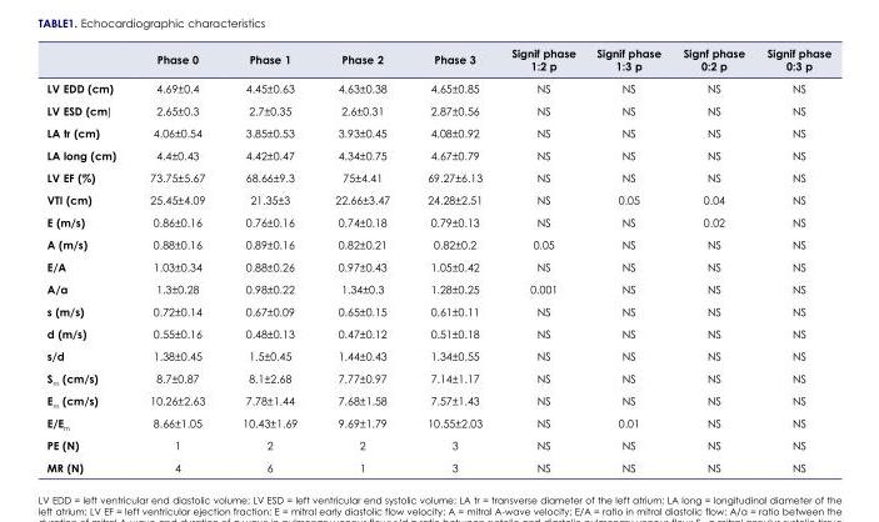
<table><thead><tr><td></td><td>Phase 0</td><td>Phase 1</td><td>Phase 2</td><td>Phase 3</td><td>Signif phase 1:2 p</td><td>Signif phase 1:3 p</td><td>Signf phase 0:2 p</td><td>Signif phase 0:3 p</td></tr></thead><tbody><tr><td>LV EDD (cm)</td><td>4.69±0.4</td><td>4.45±0.63</td><td>4.63±0.38</td><td>4.65±0.85</td><td>NS</td><td>NS</td><td>NS</td><td>NS</td></tr><tr><td>LV ESD (cm)</td><td>2.65±0.3</td><td>2.7±0.35</td><td>2.6±0.31</td><td>2.87±0.56</td><td>NS</td><td>NS</td><td>NS</td><td>NS</td></tr><tr><td>LA tr (cm)</td><td>4.06±0.54</td><td>3.85±0.53</td><td>3.93±0.45</td><td>4.08±0.92</td><td>NS</td><td>NS</td><td>NS</td><td>NS</td></tr><tr><td>LA long (cm)</td><td>4.4±0.43</td><td>4.42±0.47</td><td>4.34±0.75</td><td>4.67±0.79</td><td>NS</td><td>NS</td><td>NS</td><td>NS</td></tr><tr><td>LV EF (%)</td><td>73.75±5.67</td><td>68.66±9.3</td><td>75±4.41</td><td>69.27±6.13</td><td>NS</td><td>NS</td><td>NS</td><td>NS</td></tr><tr><td>VTI (cm)</td><td>25.45±4.09</td><td>21.35±3</td><td>22.66±3.47</td><td>24.28±2.51</td><td>NS</td><td>0.05</td><td>0.04</td><td>NS</td></tr><tr><td>E (m/s)</td><td>0.86±0.16</td><td>0.76±0.16</td><td>0.74±0.18</td><td>0.79±0.13</td><td>NS</td><td>NS</td><td>0.02</td><td>NS</td></tr><tr><td>A (m/s)</td><td>0.88±0.16</td><td>0.89±0.16</td><td>0.82±0.21</td><td>0.82±0.2</td><td>0.05</td><td>NS</td><td>NS</td><td>NS</td></tr><tr><td>E/A</td><td>1.03±0.34</td><td>0.88±0.26</td><td>0.97±0.43</td><td>1.05±0.42</td><td>NS</td><td>NS</td><td>NS</td><td>NS</td></tr><tr><td>A/a</td><td>1.3±0.28</td><td>0.98±0.22</td><td>1.34±0.3</td><td>1.28±0.25</td><td>0.001</td><td>NS</td><td>NS</td><td>NS</td></tr><tr><td>s (m/s)</td><td>0.72±0.14</td><td>0.67±0.09</td><td>0.65±0.15</td><td>0.61±0.11</td><td>NS</td><td>NS</td><td>NS</td><td>NS</td></tr><tr><td>d (m/s)</td><td>0.55±0.16</td><td>0.48±0.13</td><td>0.47±0.12</td><td>0.51±0.18</td><td>NS</td><td>NS</td><td>NS</td><td>NS</td></tr><tr><td>s/d</td><td>1.38±0.45</td><td>1.5±0.45</td><td>1.44±0.43</td><td>1.34±0.55</td><td>NS</td><td>NS</td><td>NS</td><td>NS</td></tr><tr><td>S<sub>m</sub> (cm/s)</td><td>8.7±0.87</td><td>8.1±2.68</td><td>7.77±0.97</td><td>7.14±1.17</td><td>NS</td><td>NS</td><td>NS</td><td>NS</td></tr><tr><td>E<sub>m</sub> (cm/s)</td><td>10.26±2.63</td><td>7.78±1.44</td><td>7.68±1.58</td><td>7.57±1.43</td><td>NS</td><td>NS</td><td>NS</td><td>NS</td></tr><tr><td>E/E<sub>m</sub></td><td>8.66±1.05</td><td>10.43±1.69</td><td>9.69±1.79</td><td>10.55±2.03</td><td>NS</td><td>0.01</td><td>NS</td><td>NS</td></tr><tr><td>PE (N)</td><td>1</td><td>2</td><td>2</td><td>3</td><td>NS</td><td>NS</td><td>NS</td><td>NS</td></tr><tr><td>MR (N)</td><td>4</td><td>6</td><td>1</td><td>3</td><td>NS</td><td>NS</td><td>NS</td><td>NS</td></tr></tbody></table>